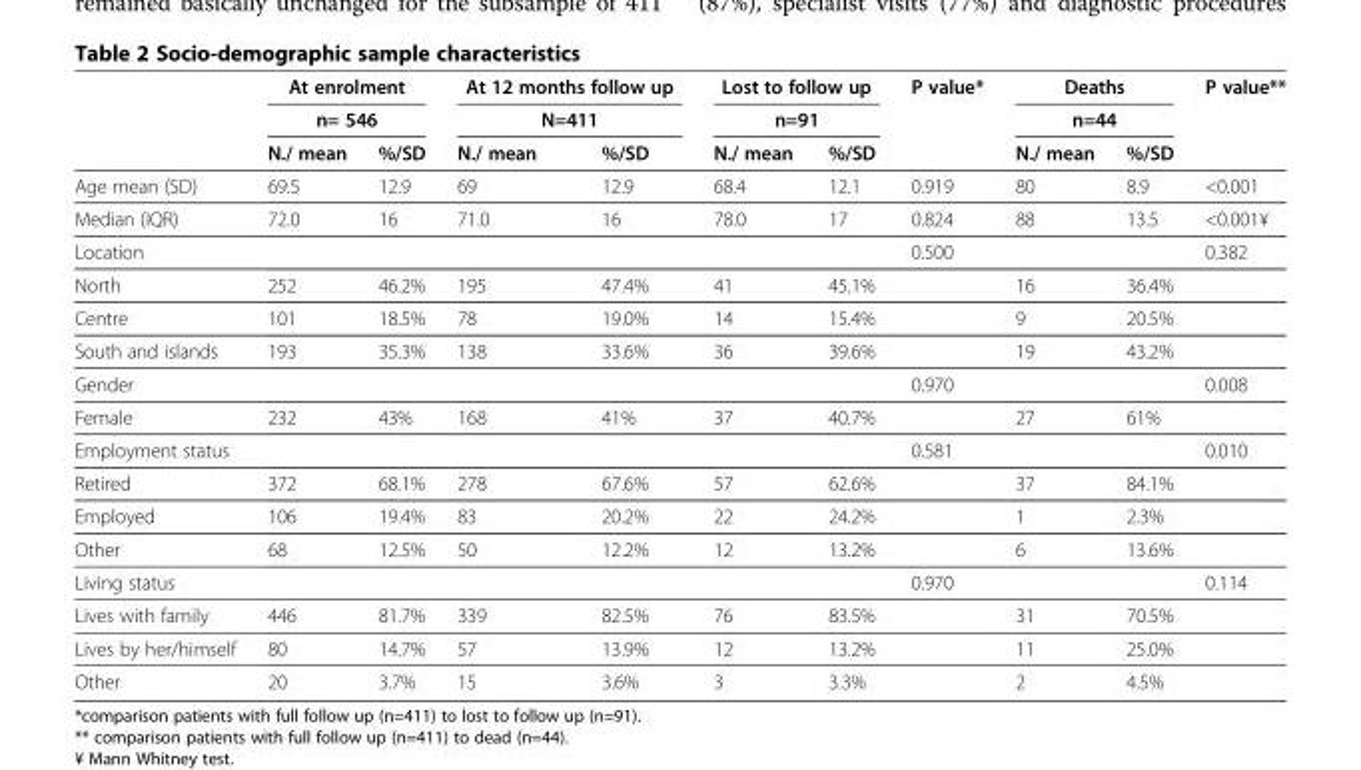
<table><thead><tr><td rowspan="3"></td><td rowspan="2" colspan="2">At enrolment n= 546</td><td rowspan="2" colspan="2">At 12 months follow up N=411</td><td rowspan="2" colspan="2">Lost to follow up n=91</td><td rowspan="3">P value*</td><td rowspan="2" colspan="2">Deaths n=44</td><td rowspan="3">P value**</td></tr><tr></tr><tr><td>N./ mean</td><td>%/SD</td><td>N./ mean</td><td>%/SD</td><td>N./ mean</td><td>%/SD</td><td>N./ mean</td><td>%/SD</td></tr></thead><tbody><tr><td>Age mean (SD)</td><td>69.5</td><td>12.9</td><td>69</td><td>12.9</td><td>68.4</td><td>12.1</td><td>0.919</td><td>80</td><td>8.9</td><td>&lt;0.001</td></tr><tr><td>Median (IQR)</td><td>72.0</td><td>16</td><td>71.0</td><td>16</td><td>78.0</td><td>17</td><td>0.824</td><td>88</td><td>13.5</td><td>&lt;0.001¥</td></tr><tr><td>Location</td><td></td><td></td><td></td><td></td><td></td><td></td><td>0.500</td><td></td><td></td><td>0.382</td></tr><tr><td>North</td><td>252</td><td>46.2%</td><td>195</td><td>47.4%</td><td>41</td><td>45.1%</td><td></td><td>16</td><td>36.4%</td><td></td></tr><tr><td>Centre</td><td>101</td><td>18.5%</td><td>78</td><td>19.0%</td><td>14</td><td>15.4%</td><td></td><td>9</td><td>20.5%</td><td></td></tr><tr><td>South and islands</td><td>193</td><td>35.3%</td><td>138</td><td>33.6%</td><td>36</td><td>39.6%</td><td></td><td>19</td><td>43.2%</td><td></td></tr><tr><td>Gender</td><td></td><td></td><td></td><td></td><td></td><td></td><td>0.970</td><td></td><td></td><td>0.008</td></tr><tr><td>Female</td><td>232</td><td>43%</td><td>168</td><td>41%</td><td>37</td><td>40.7%</td><td></td><td>27</td><td>61%</td><td></td></tr><tr><td>Employment status</td><td></td><td></td><td></td><td></td><td></td><td></td><td>0.581</td><td></td><td></td><td>0.010</td></tr><tr><td>Retired</td><td>372</td><td>68.1%</td><td>278</td><td>67.6%</td><td>57</td><td>62.6%</td><td></td><td>37</td><td>84.1%</td><td></td></tr><tr><td>Employed</td><td>106</td><td>19.4%</td><td>83</td><td>20.2%</td><td>22</td><td>24.2%</td><td></td><td>1</td><td>2.3%</td><td></td></tr><tr><td>Other</td><td>68</td><td>12.5%</td><td>50</td><td>12.2%</td><td>12</td><td>13.2%</td><td></td><td>6</td><td>13.6%</td><td></td></tr><tr><td>Living status</td><td></td><td></td><td></td><td></td><td></td><td></td><td>0.970</td><td></td><td></td><td>0.114</td></tr><tr><td>Lives with family</td><td>446</td><td>81.7%</td><td>339</td><td>82.5%</td><td>76</td><td>83.5%</td><td></td><td>31</td><td>70.5%</td><td></td></tr><tr><td>Lives by her/himself</td><td>80</td><td>14.7%</td><td>57</td><td>13.9%</td><td>12</td><td>13.2%</td><td></td><td>11</td><td>25.0%</td><td></td></tr><tr><td>Other</td><td>20</td><td>3.7%</td><td>15</td><td>3.6%</td><td>3</td><td>3.3%</td><td></td><td>2</td><td>4.5%</td><td></td></tr></tbody></table>